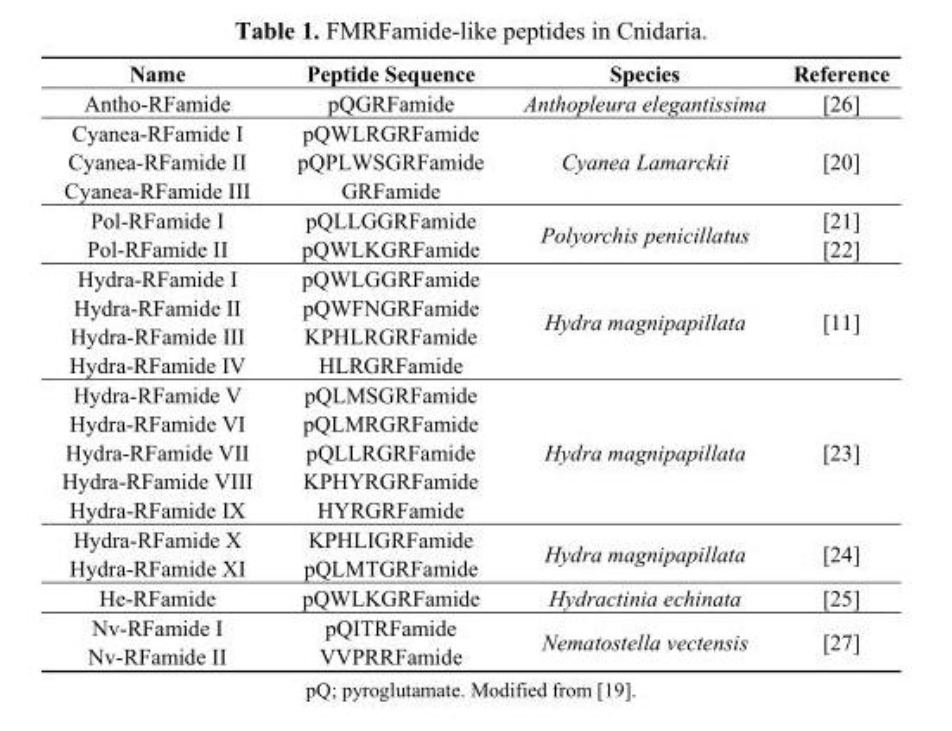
<table><thead><tr><td>Name</td><td>Peptide Sequence</td><td>Species</td><td>Reference</td></tr></thead><tbody><tr><td>Antho-RFamide</td><td>pQGRFamide</td><td>Anthopleura elegantissima</td><td>[26]</td></tr><tr><td>Cyanea-RFamide I</td><td>pQWLRGRFamide</td><td rowspan="3">Cyanea Lamarckii</td><td rowspan="3">[20]</td></tr><tr><td>Cyanea-RFamide II</td><td>pQPLWSGRFamide</td></tr><tr><td>Cyanea-RFamide III</td><td>GRFamide</td></tr><tr><td>Pol-RFamide I</td><td>pQLLGGRFamide</td><td rowspan="2">Polyorchis penicillatus</td><td>[21]</td></tr><tr><td>Pol-RFamide II</td><td>pQWLKGRFamide</td><td>[22]</td></tr><tr><td>Hydra-RFamide I</td><td>pQWLGGRFamide</td><td rowspan="4">Hydra magnipapillata</td><td rowspan="4">[11]</td></tr><tr><td>Hydra-RFamide II</td><td>pQWFNGRFamide</td></tr><tr><td>Hydra-RFamide III</td><td>KPHLRGRFamide</td></tr><tr><td>Hydra-RFamide IV</td><td>HLRGRFamide</td></tr><tr><td>Hydra-RFamide V</td><td>pQLMSGRFamide</td><td rowspan="5">Hydra magnipapillata</td><td rowspan="5">[23]</td></tr><tr><td>Hydra-RFamide VI</td><td>pQLMRGRFamide</td></tr><tr><td>Hydra-RFamide VII</td><td>pQLLRGRFamide</td></tr><tr><td>Hydra-RFamide VIII</td><td>KPHYRGRFamide</td></tr><tr><td>Hydra-RFamide IX</td><td>HYRGRFamide</td></tr><tr><td>Hydra-RFamide X</td><td>KPHLIGRFamide</td><td rowspan="2">Hydra magnipapillata</td><td rowspan="2">[24]</td></tr><tr><td>Hydra-RFamide XI</td><td>pQLMTGRFamide</td></tr><tr><td>He-RFamide</td><td>pQWLKGRFamide</td><td>Hydractinia echinata</td><td>[25]</td></tr><tr><td>Nv-RFamide I</td><td>pQITRFamide</td><td rowspan="2">Nematostella vectensis</td><td rowspan="2">[27]</td></tr><tr><td>Nv-RFamide II</td><td>VVPRRFamide</td></tr></tbody></table>